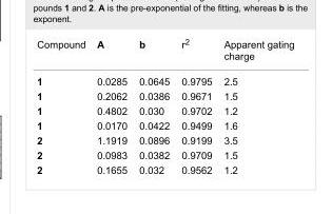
<table><tbody><tr><td>Compound</td><td>A</td><td>b</td><td>r<sup>2</sup></td><td>Apparent gating charge</td></tr><tr><td>1</td><td>0.0285</td><td>0.0645</td><td>0.9795</td><td>2.5</td></tr><tr><td>1</td><td>0.2062</td><td>0.0386</td><td>0.9671</td><td>1.5</td></tr><tr><td>1</td><td>0.4802</td><td>0.030</td><td>0.9702</td><td>1.2</td></tr><tr><td>1</td><td>0.0170</td><td>0.0422</td><td>0.9499</td><td>1.6</td></tr><tr><td>2</td><td>1.1919</td><td>0.0896</td><td>0.9199</td><td>3.5</td></tr><tr><td>2</td><td>0.0983</td><td>0.0382</td><td>0.9709</td><td>1.5</td></tr><tr><td>2</td><td>0.1655</td><td>0.032</td><td>0.9562</td><td>1.2</td></tr></tbody></table>